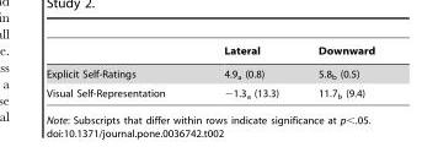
<table><thead><tr><td></td><td>Lateral</td><td>Downward</td></tr></thead><tbody><tr><td>Explicit Self-Ratings</td><td>4.9<sub>a</sub> (0.8)</td><td>5.8<sub>b</sub> (0.5)</td></tr><tr><td>Visual Self-Representation</td><td>−1.3<sub>a</sub> (13.3)</td><td>11.7<sub>b</sub> (9.4)</td></tr></tbody></table>